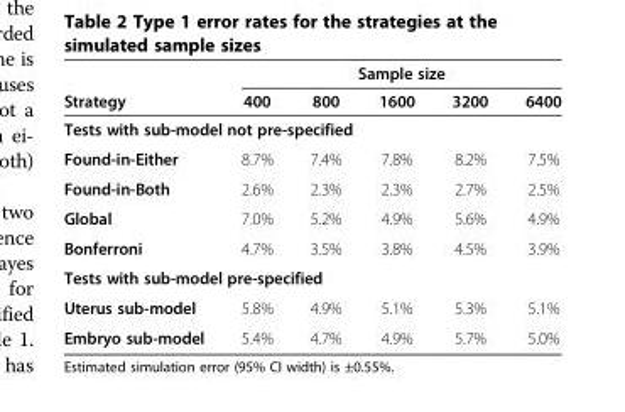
<table><thead><tr><td rowspan="2">Strategy</td><td colspan="5">Sample size</td></tr><tr><td>400</td><td>800</td><td>1600</td><td>3200</td><td>6400</td></tr></thead><tbody><tr><td colspan="6">Tests with sub-model not pre-specified</td></tr><tr><td>Found-in-Either</td><td>8.7%</td><td>7.4%</td><td>7.8%</td><td>8.2%</td><td>7.5%</td></tr><tr><td>Found-in-Both</td><td>2.6%</td><td>2.3%</td><td>2.3%</td><td>2.7%</td><td>2.5%</td></tr><tr><td>Global</td><td>7.0%</td><td>5.2%</td><td>4.9%</td><td>5.6%</td><td>4.9%</td></tr><tr><td>Bonferroni</td><td>4.7%</td><td>3.5%</td><td>3.8%</td><td>4.5%</td><td>3.9%</td></tr><tr><td colspan="6">Tests with sub-model pre-specified</td></tr><tr><td>Uterus sub-model</td><td>5.8%</td><td>4.9%</td><td>5.1%</td><td>5.3%</td><td>5.1%</td></tr><tr><td>Embryo sub-model</td><td>5.4%</td><td>4.7%</td><td>4.9%</td><td>5.7%</td><td>5.0%</td></tr></tbody></table>